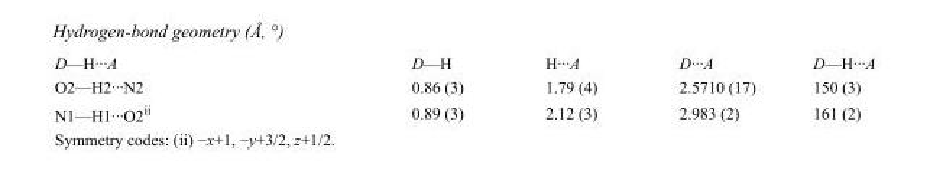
<table><tbody><tr><td>D—H···A</td><td>D—H</td><td>H···A</td><td>D···A</td><td>D—H···A</td></tr><tr><td>O2—H2···N2</td><td>0.86 (3)</td><td>1.79 (4)</td><td>2.5710 (17)</td><td>150 (3)</td></tr><tr><td>N1—H1···O2<sup>ii</sup></td><td>0.89 (3)</td><td>2.12 (3)</td><td>2.983 (2)</td><td>161 (2)</td></tr></tbody></table>